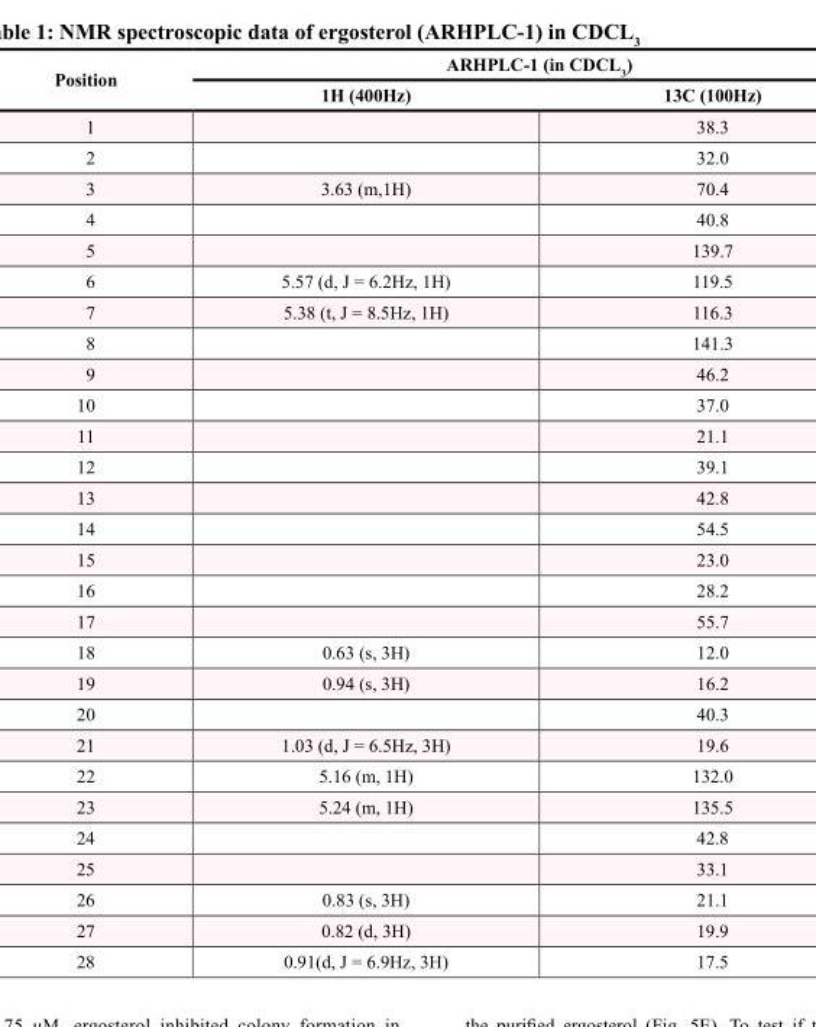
<table><thead><tr><td rowspan="2">Position</td><td colspan="2">ARHPLC-1 (in CDCL<sub>3</sub>)</td></tr><tr><td>1H (400Hz)</td><td>13C (100Hz)</td></tr></thead><tbody><tr><td>1</td><td></td><td>38.3</td></tr><tr><td>2</td><td></td><td>32.0</td></tr><tr><td>3</td><td>3.63 (m,1H)</td><td>70.4</td></tr><tr><td>4</td><td></td><td>40.8</td></tr><tr><td>5</td><td></td><td>139.7</td></tr><tr><td>6</td><td>5.57 (d, J = 6.2Hz, 1H)</td><td>119.5</td></tr><tr><td>7</td><td>5.38 (t, J = 8.5Hz, 1H)</td><td>116.3</td></tr><tr><td>8</td><td></td><td>141.3</td></tr><tr><td>9</td><td></td><td>46.2</td></tr><tr><td>10</td><td></td><td>37.0</td></tr><tr><td>11</td><td></td><td>21.1</td></tr><tr><td>12</td><td></td><td>39.1</td></tr><tr><td>13</td><td></td><td>42.8</td></tr><tr><td>14</td><td></td><td>54.5</td></tr><tr><td>15</td><td></td><td>23.0</td></tr><tr><td>16</td><td></td><td>28.2</td></tr><tr><td>17</td><td></td><td>55.7</td></tr><tr><td>18</td><td>0.63 (s, 3H)</td><td>12.0</td></tr><tr><td>19</td><td>0.94 (s, 3H)</td><td>16.2</td></tr><tr><td>20</td><td></td><td>40.3</td></tr><tr><td>21</td><td>1.03 (d, J = 6.5Hz, 3H)</td><td>19.6</td></tr><tr><td>22</td><td>5.16 (m, 1H)</td><td>132.0</td></tr><tr><td>23</td><td>5.24 (m, 1H)</td><td>135.5</td></tr><tr><td>24</td><td></td><td>42.8</td></tr><tr><td>25</td><td></td><td>33.1</td></tr><tr><td>26</td><td>0.83 (s, 3H)</td><td>21.1</td></tr><tr><td>27</td><td>0.82 (d, 3H)</td><td>19.9</td></tr><tr><td>28</td><td>0.91(d, J = 6.9Hz, 3H)</td><td>17.5</td></tr></tbody></table>